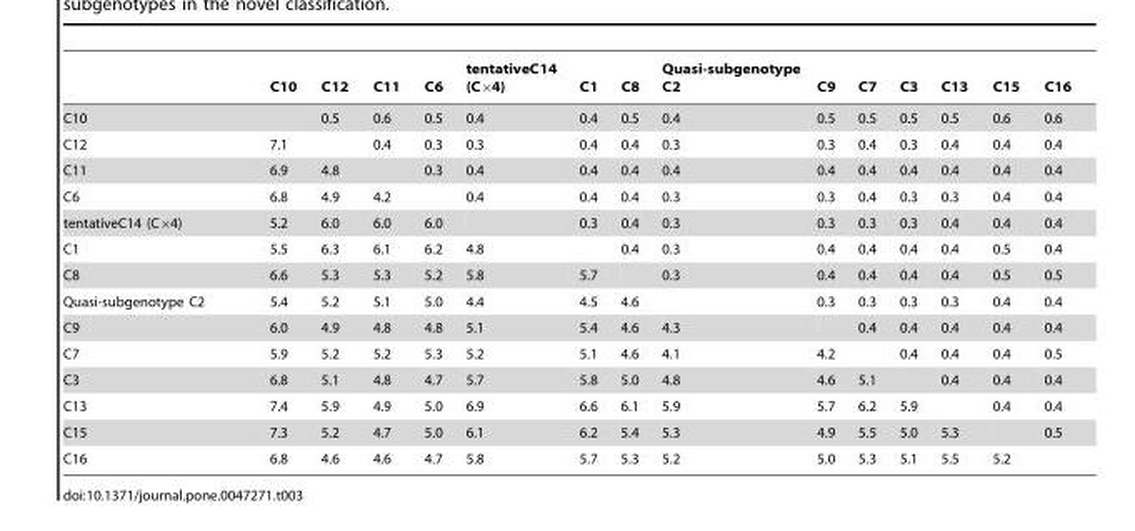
<table><thead><tr><td></td><td>C10</td><td>C12</td><td>C11</td><td>C6</td><td>tentativeC14 (C×4)</td><td>C1</td><td>C8</td><td>Quasi-subgenotype C2</td><td>C9</td><td>C7</td><td>C3</td><td>C13</td><td>C15</td><td>C16</td></tr></thead><tbody><tr><td>C10</td><td></td><td>0.5</td><td>0.6</td><td>0.5</td><td>0.4</td><td>0.4</td><td>0.5</td><td>0.4</td><td>0.5</td><td>0.5</td><td>0.5</td><td>0.5</td><td>0.6</td><td>0.6</td></tr><tr><td>C12</td><td>7.1</td><td></td><td>0.4</td><td>0.3</td><td>0.3</td><td>0.4</td><td>0.4</td><td>0.3</td><td>0.3</td><td>0.4</td><td>0.3</td><td>0.4</td><td>0.4</td><td>0.4</td></tr><tr><td>C11</td><td>6.9</td><td>4.8</td><td></td><td>0.3</td><td>0.4</td><td>0.4</td><td>0.4</td><td>0.4</td><td>0.4</td><td>0.4</td><td>0.4</td><td>0.4</td><td>0.4</td><td>0.4</td></tr><tr><td>C6</td><td>6.8</td><td>4.9</td><td>4.2</td><td></td><td>0.4</td><td>0.4</td><td>0.4</td><td>0.3</td><td>0.3</td><td>0.4</td><td>0.3</td><td>0.3</td><td>0.4</td><td>0.4</td></tr><tr><td>tentativeC14 (C×4)</td><td>5.2</td><td>6.0</td><td>6.0</td><td>6.0</td><td></td><td>0.3</td><td>0.4</td><td>0.3</td><td>0.3</td><td>0.3</td><td>0.3</td><td>0.4</td><td>0.4</td><td>0.4</td></tr><tr><td>C1</td><td>5.5</td><td>6.3</td><td>6.1</td><td>6.2</td><td>4.8</td><td></td><td>0.4</td><td>0.3</td><td>0.4</td><td>0.4</td><td>0.4</td><td>0.4</td><td>0.5</td><td>0.4</td></tr><tr><td>C8</td><td>6.6</td><td>5.3</td><td>5.3</td><td>5.2</td><td>5.8</td><td>5.7</td><td></td><td>0.3</td><td>0.4</td><td>0.4</td><td>0.4</td><td>0.4</td><td>0.5</td><td>0.5</td></tr><tr><td>Quasi-subgenotype C2</td><td>5.4</td><td>5.2</td><td>5.1</td><td>5.0</td><td>4.4</td><td>4.5</td><td>4.6</td><td></td><td>0.3</td><td>0.3</td><td>0.3</td><td>0.3</td><td>0.4</td><td>0.4</td></tr><tr><td>C9</td><td>6.0</td><td>4.9</td><td>4.8</td><td>4.8</td><td>5.1</td><td>5.4</td><td>4.6</td><td>4.3</td><td></td><td>0.4</td><td>0.4</td><td>0.4</td><td>0.4</td><td>0.4</td></tr><tr><td>C7</td><td>5.9</td><td>5.2</td><td>5.2</td><td>5.3</td><td>5.2</td><td>5.1</td><td>4.6</td><td>4.1</td><td>4.2</td><td></td><td>0.4</td><td>0.4</td><td>0.4</td><td>0.5</td></tr><tr><td>C3</td><td>6.8</td><td>5.1</td><td>4.8</td><td>4.7</td><td>5.7</td><td>5.8</td><td>5.0</td><td>4.8</td><td>4.6</td><td>5.1</td><td></td><td>0.4</td><td>0.4</td><td>0.4</td></tr><tr><td>C13</td><td>7.4</td><td>5.9</td><td>4.9</td><td>5.0</td><td>6.9</td><td>6.6</td><td>6.1</td><td>5.9</td><td>5.7</td><td>6.2</td><td>5.9</td><td></td><td>0.4</td><td>0.4</td></tr><tr><td>C15</td><td>7.3</td><td>5.2</td><td>4.7</td><td>5.0</td><td>6.1</td><td>6.2</td><td>5.4</td><td>5.3</td><td>4.9</td><td>5.5</td><td>5.0</td><td>5.3</td><td></td><td>0.5</td></tr><tr><td>C16</td><td>6.8</td><td>4.6</td><td>4.6</td><td>4.7</td><td>5.8</td><td>5.7</td><td>5.3</td><td>5.2</td><td>5.0</td><td>5.3</td><td>5.1</td><td>5.5</td><td>5.2</td><td></td></tr></tbody></table>